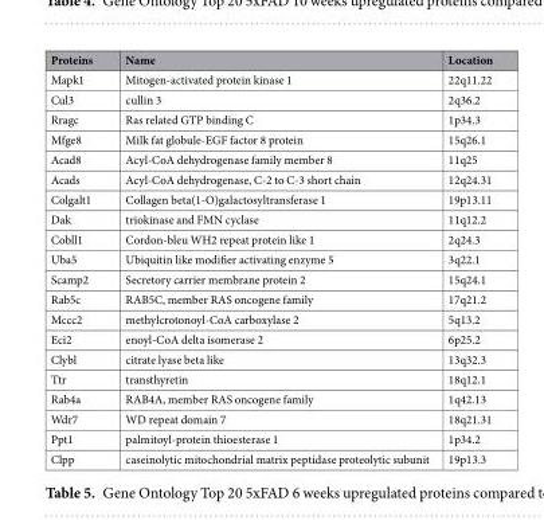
<table><thead><tr><td>Proteins</td><td>Name</td><td>Location</td></tr></thead><tbody><tr><td>Mapk1</td><td>Mitogen-activated protein kinase 1</td><td>22q11.22</td></tr><tr><td>Cul3</td><td>cullin 3</td><td>2q36.2</td></tr><tr><td>Rragc</td><td>Ras related GTP binding C</td><td>1p34.3</td></tr><tr><td>Mfge8</td><td>Milk fat globule-EGF factor 8 protein</td><td>15q26.1</td></tr><tr><td>Acad8</td><td>Acyl-CoA dehydrogenase family member 8</td><td>11q25</td></tr><tr><td>Acads</td><td>Acyl-CoA dehydrogenase, C-2 to C-3 short chain</td><td>12q24.31</td></tr><tr><td>Colgalt1</td><td>Collagen beta(1-O)galactosyltransferase 1</td><td>19p13.11</td></tr><tr><td>Dak</td><td>triokinase and FMN cyclase</td><td>11q12.2</td></tr><tr><td>Cobll1</td><td>Cordon-bleu WH2 repeat protein like 1</td><td>2q24.3</td></tr><tr><td>Uba5</td><td>Ubiquitin like modifier activating enzyme 5</td><td>3q22.1</td></tr><tr><td>Scamp2</td><td>Secretory carrier membrane protein 2</td><td>15q24.1</td></tr><tr><td>Rab5c</td><td>RAB5C, member RAS oncogene family</td><td>17q21.2</td></tr><tr><td>Mccc2</td><td>methylcrotonoyl-CoA carboxylase 2</td><td>5q13.2</td></tr><tr><td>Eci2</td><td>enoyl-CoA delta isomerase 2</td><td>6p25.2</td></tr><tr><td>Clybl</td><td>citrate lyase beta like</td><td>13q32.3</td></tr><tr><td>Ttr</td><td>transthyretin</td><td>18q12.1</td></tr><tr><td>Rab4a</td><td>RAB4A, member RAS oncogene family</td><td>1q42.13</td></tr><tr><td>Wdr7</td><td>WD repeat domain 7</td><td>18q21.31</td></tr><tr><td>Ppt1</td><td>palmitoyl-protein thioesterase 1</td><td>1p34.2</td></tr><tr><td>Clpp</td><td>caseinolytic mitochondrial matrix peptidase proteolytic subunit</td><td>19p13.3</td></tr></tbody></table>